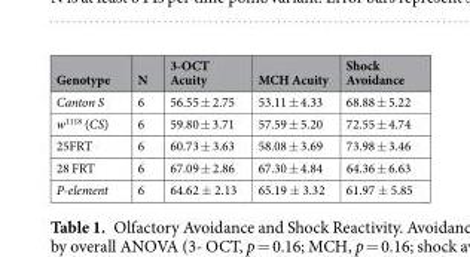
<table><thead><tr><td>Genotype</td><td>N</td><td>3-OCT Acuity</td><td>MCH Acuity</td><td>Shock Avoidance</td></tr></thead><tbody><tr><td>Canton S</td><td>6</td><td>56.55 ± 2.75</td><td>53.11 ± 4.33</td><td>68.88 ± 5.22</td></tr><tr><td>w<sup>1118</sup> (CS)</td><td>6</td><td>59.80 ± 3.71</td><td>57.59 ± 5.20</td><td>72.55 ± 4.74</td></tr><tr><td>25FRT</td><td>6</td><td>60.73 ± 3.63</td><td>58.08 ± 3.69</td><td>73.98 ± 3.46</td></tr><tr><td>28 FRT</td><td>6</td><td>67.09 ± 2.86</td><td>67.30 ± 4.84</td><td>64.36 ± 6.63</td></tr><tr><td>P-element</td><td>6</td><td>64.62 ± 2.13</td><td>65.19 ± 3.32</td><td>61.97 ± 5.85</td></tr></tbody></table>